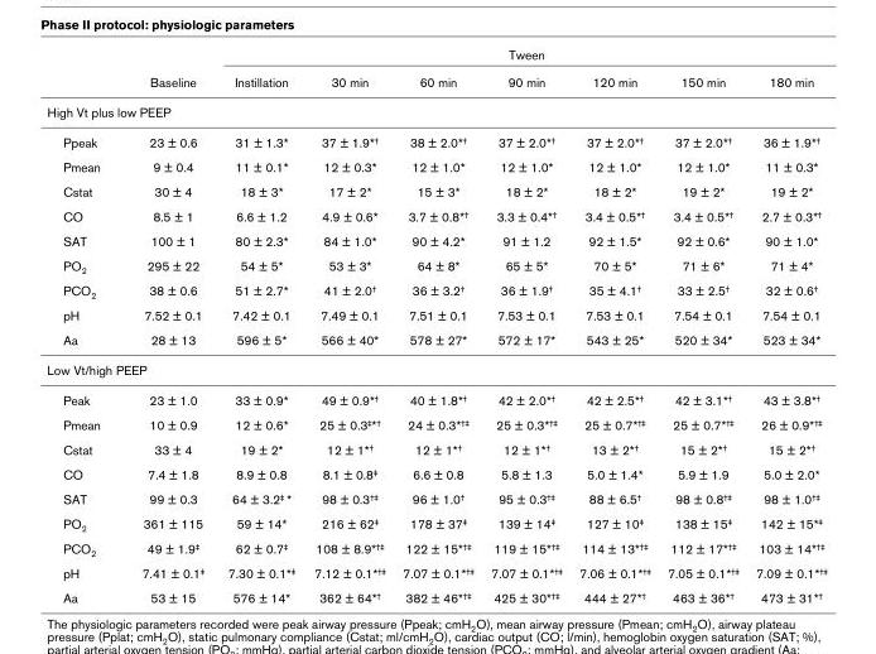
<table><thead><tr><td rowspan="2"></td><td rowspan="2">Baseline</td><td colspan="7">Tween</td></tr><tr><td>Instillation</td><td>30 min</td><td>60 min</td><td>90 min</td><td>120 min</td><td>150 min</td><td>180 min</td></tr></thead><tbody><tr><td colspan="9">High Vt plus low PEEP</td></tr><tr><td>Ppeak</td><td>23 ± 0.6</td><td>31 ± 1.3*</td><td>37 ± 1.9*<sup>†</sup></td><td>38 ± 2.0*<sup>†</sup></td><td>37 ± 2.0*<sup>†</sup></td><td>37 ± 2.0*<sup>†</sup></td><td>37 ± 2.0*<sup>†</sup></td><td>36 ± 1.9*<sup>†</sup></td></tr><tr><td>Pmean</td><td>9 ± 0.4</td><td>11 ± 0.1*</td><td>12 ± 0.3*</td><td>12 ± 1.0*</td><td>12 ± 1.0*</td><td>12 ± 1.0*</td><td>12 ± 1.0*</td><td>11 ± 0.3*</td></tr><tr><td>Cstat</td><td>30 ± 4</td><td>18 ± 3*</td><td>17 ± 2*</td><td>15 ± 3*</td><td>18 ± 2*</td><td>18 ± 2*</td><td>19 ± 2*</td><td>19 ± 2*</td></tr><tr><td>CO</td><td>8.5 ± 1</td><td>6.6 ± 1.2</td><td>4.9 ± 0.6*</td><td>3.7 ± 0.8*<sup>†</sup></td><td>3.3 ± 0.4*<sup>†</sup></td><td>3.4 ± 0.5*<sup>†</sup></td><td>3.4 ± 0.5*<sup>†</sup></td><td>2.7 ± 0.3*<sup>†</sup></td></tr><tr><td>SAT</td><td>100 ± 1</td><td>80 ± 2.3*</td><td>84 ± 1.0*</td><td>90 ± 4.2*</td><td>91 ± 1.2</td><td>92 ± 1.5*</td><td>92 ± 0.6*</td><td>90 ± 1.0*</td></tr><tr><td>PO<sub>2</sub></td><td>295 ± 22</td><td>54 ± 5*</td><td>53 ± 3*</td><td>64 ± 8*</td><td>65 ± 5*</td><td>70 ± 5*</td><td>71 ± 6*</td><td>71 ± 4*</td></tr><tr><td>PCO<sub>2</sub></td><td>38 ± 0.6</td><td>51 ± 2.7*</td><td>41 ± 2.0<sup>†</sup></td><td>36 ± 3.2<sup>†</sup></td><td>36 ± 1.9<sup>†</sup></td><td>35 ± 4.1<sup>†</sup></td><td>33 ± 2.5<sup>†</sup></td><td>32 ± 0.6<sup>†</sup></td></tr><tr><td>pH</td><td>7.52 ± 0.1</td><td>7.42 ± 0.1</td><td>7.49 ± 0.1</td><td>7.51 ± 0.1</td><td>7.53 ± 0.1</td><td>7.53 ± 0.1</td><td>7.54 ± 0.1</td><td>7.54 ± 0.1</td></tr><tr><td>Aa</td><td>28 ± 13</td><td>596 ± 5*</td><td>566 ± 40*</td><td>578 ± 27*</td><td>572 ± 17*</td><td>543 ± 25*</td><td>520 ± 34*</td><td>523 ± 34*</td></tr><tr><td colspan="9">Low Vt/high PEEP</td></tr><tr><td>Peak</td><td>23 ± 1.0</td><td>33 ± 0.9*</td><td>49 ± 0.9*<sup>†</sup></td><td>40 ± 1.8*<sup>†</sup></td><td>42 ± 2.0*<sup>†</sup></td><td>42 ± 2.5*<sup>†</sup></td><td>42 ± 3.1*<sup>†</sup></td><td>43 ± 3.8*<sup>†</sup></td></tr><tr><td>Pmean</td><td>10 ± 0.9</td><td>12 ± 0.6*</td><td>25 ± 0.3<sup>‡</sup>*<sup>†</sup></td><td>24 ± 0.3*<sup>†‡</sup></td><td>25 ± 0.3*<sup>†‡</sup></td><td>25 ± 0.7*<sup>†‡</sup></td><td>25 ± 0.7*<sup>†‡</sup></td><td>26 ± 0.9*<sup>†‡</sup></td></tr><tr><td>Cstat</td><td>33 ± 4</td><td>19 ± 2*</td><td>12 ± 1*<sup>†</sup></td><td>12 ± 1*<sup>†</sup></td><td>12 ± 1*<sup>†</sup></td><td>13 ± 2*<sup>†</sup></td><td>15 ± 2*<sup>†</sup></td><td>15 ± 2*<sup>†</sup></td></tr><tr><td>CO</td><td>7.4 ± 1.8</td><td>8.9 ± 0.8</td><td>8.1 ± 0.8<sup>‡</sup></td><td>6.6 ± 0.8</td><td>5.8 ± 1.3</td><td>5.0 ± 1.4*</td><td>5.9 ± 1.9</td><td>5.0 ± 2.0*</td></tr><tr><td>SAT</td><td>99 ± 0.3</td><td>64 ± 3.2<sup>‡</sup> *</td><td>98 ± 0.3<sup>†‡</sup></td><td>96 ± 1.0<sup>†</sup></td><td>95 ± 0.3<sup>†‡</sup></td><td>88 ± 6.5<sup>†</sup></td><td>98 ± 0.8<sup>†‡</sup></td><td>98 ± 1.0<sup>†‡</sup></td></tr><tr><td>PO<sub>2</sub></td><td>361 ± 115</td><td>59 ± 14*</td><td>216 ± 62<sup>‡</sup></td><td>178 ± 37<sup>‡</sup></td><td>139 ± 14<sup>‡</sup></td><td>127 ± 10<sup>‡</sup></td><td>138 ± 15<sup>‡</sup></td><td>142 ± 15*<sup>‡</sup></td></tr><tr><td>PCO<sub>2</sub></td><td>49 ± 1.9<sup>‡</sup></td><td>62 ± 0.7<sup>‡</sup></td><td>108 ± 8.9*<sup>†‡</sup></td><td>122 ± 15*<sup>†‡</sup></td><td>119 ± 15*<sup>†‡</sup></td><td>114 ± 13*<sup>†‡</sup></td><td>112 ± 17*<sup>†‡</sup></td><td>103 ± 14*<sup>†‡</sup></td></tr><tr><td>pH</td><td>7.41 ± 0.1<sup>‡</sup></td><td>7.30 ± 0.1*<sup>‡</sup></td><td>7.12 ± 0.1*<sup>†‡</sup></td><td>7.07 ± 0.1*<sup>†‡</sup></td><td>7.07 ± 0.1*<sup>†‡</sup></td><td>7.06 ± 0.1*<sup>†‡</sup></td><td>7.05 ± 0.1*<sup>†‡</sup></td><td>7.09 ± 0.1*<sup>†‡</sup></td></tr><tr><td>Aa</td><td>53 ± 15</td><td>576 ± 14*</td><td>362 ± 64*<sup>†</sup></td><td>382 ± 46*<sup>†‡</sup></td><td>425 ± 30*<sup>†‡</sup></td><td>444 ± 27*<sup>†</sup></td><td>463 ± 36*<sup>†</sup></td><td>473 ± 31*<sup>†</sup></td></tr></tbody></table>